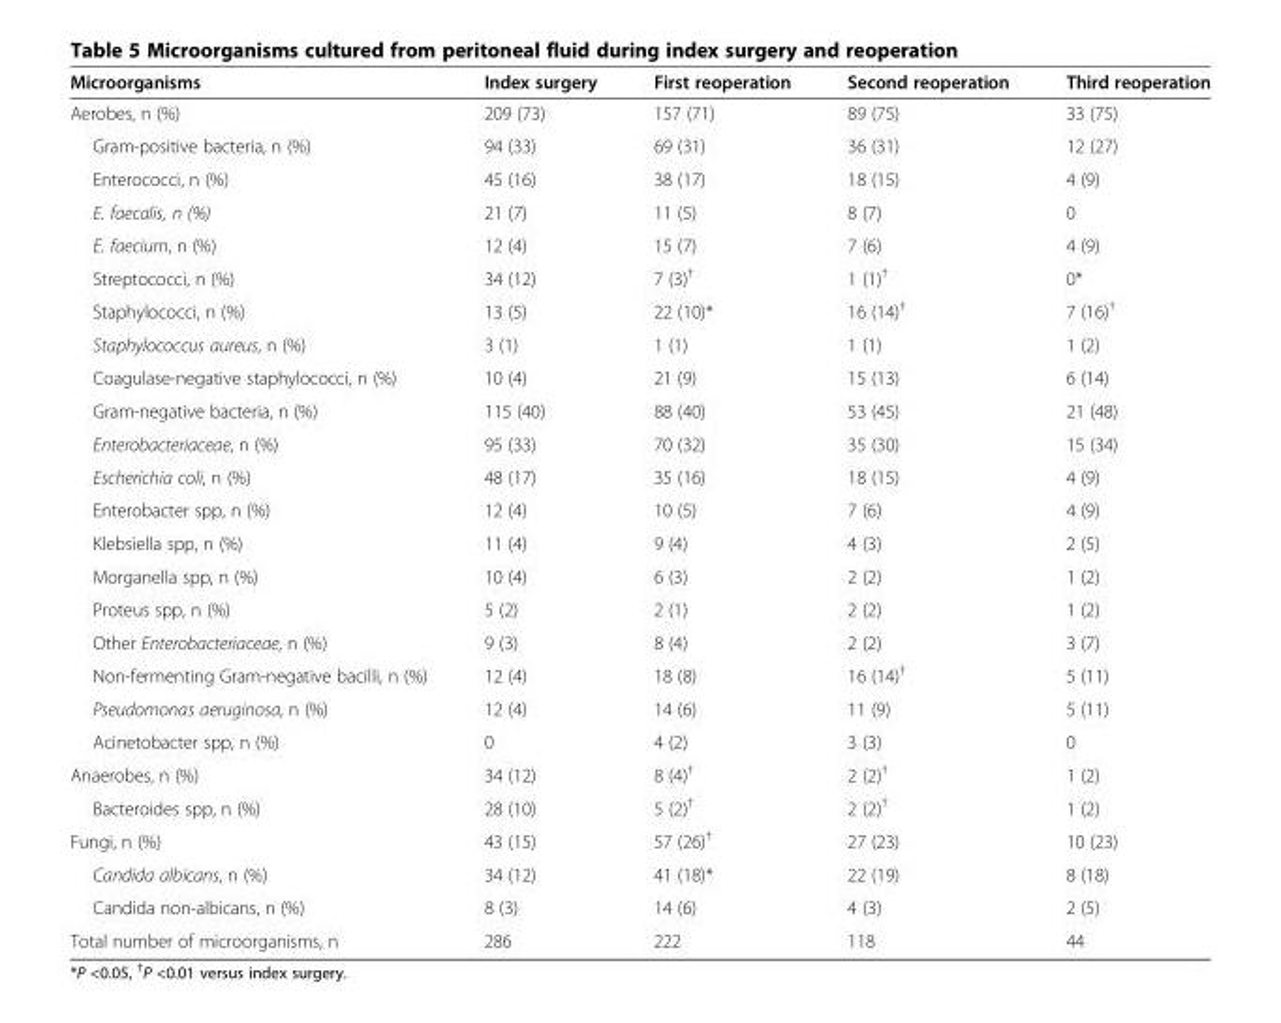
<table><thead><tr><td>Microorganisms</td><td>Index surgery</td><td>First reoperation</td><td>Second reoperation</td><td>Third reoperation</td></tr></thead><tbody><tr><td>Aerobes, n (%)</td><td>209 (73)</td><td>157 (71)</td><td>89 (75)</td><td>33 (75)</td></tr><tr><td>Gram-positive bacteria, n (%)</td><td>94 (33)</td><td>69 (31)</td><td>36 (31)</td><td>12 (27)</td></tr><tr><td>Enterococci, n (%)</td><td>45 (16)</td><td>38 (17)</td><td>18 (15)</td><td>4 (9)</td></tr><tr><td>E. faecalis, n (%)</td><td>21 (7)</td><td>11 (5)</td><td>8 (7)</td><td>0</td></tr><tr><td>E. faecium, n (%)</td><td>12 (4)</td><td>15 (7)</td><td>7 (6)</td><td>4 (9)</td></tr><tr><td>Streptococci, n (%)</td><td>34 (12)</td><td>7 (3)<sup>†</sup></td><td>1 (1)<sup>†</sup></td><td>0*</td></tr><tr><td>Staphylococci, n (%)</td><td>13 (5)</td><td>22 (10)*</td><td>16 (14)<sup>†</sup></td><td>7 (16)<sup>†</sup></td></tr><tr><td>Staphylococcus aureus, n (%)</td><td>3 (1)</td><td>1 (1)</td><td>1 (1)</td><td>1 (2)</td></tr><tr><td>Coagulase-negative staphylococci, n (%)</td><td>10 (4)</td><td>21 (9)</td><td>15 (13)</td><td>6 (14)</td></tr><tr><td>Gram-negative bacteria, n (%)</td><td>115 (40)</td><td>88 (40)</td><td>53 (45)</td><td>21 (48)</td></tr><tr><td>Enterobacteriaceae, n (%)</td><td>95 (33)</td><td>70 (32)</td><td>35 (30)</td><td>15 (34)</td></tr><tr><td>Escherichia coli, n (%)</td><td>48 (17)</td><td>35 (16)</td><td>18 (15)</td><td>4 (9)</td></tr><tr><td>Enterobacter spp, n (%)</td><td>12 (4)</td><td>10 (5)</td><td>7 (6)</td><td>4 (9)</td></tr><tr><td>Klebsiella spp, n (%)</td><td>11 (4)</td><td>9 (4)</td><td>4 (3)</td><td>2 (5)</td></tr><tr><td>Morganella spp, n (%)</td><td>10 (4)</td><td>6 (3)</td><td>2 (2)</td><td>1 (2)</td></tr><tr><td>Proteus spp, n (%)</td><td>5 (2)</td><td>2 (1)</td><td>2 (2)</td><td>1 (2)</td></tr><tr><td>Other Enterobacteriaceae, n (%)</td><td>9 (3)</td><td>8 (4)</td><td>2 (2)</td><td>3 (7)</td></tr><tr><td>Non-fermenting Gram-negative bacilli, n (%)</td><td>12 (4)</td><td>18 (8)</td><td>16 (14)<sup>†</sup></td><td>5 (11)</td></tr><tr><td>Pseudomonas aeruginosa, n (%)</td><td>12 (4)</td><td>14 (6)</td><td>11 (9)</td><td>5 (11)</td></tr><tr><td>Acinetobacter spp, n (%)</td><td>0</td><td>4 (2)</td><td>3 (3)</td><td>0</td></tr><tr><td>Anaerobes, n (%)</td><td>34 (12)</td><td>8 (4)<sup>†</sup></td><td>2 (2)<sup>†</sup></td><td>1 (2)</td></tr><tr><td>Bacteroides spp, n (%)</td><td>28 (10)</td><td>5 (2)<sup>†</sup></td><td>2 (2)<sup>†</sup></td><td>1 (2)</td></tr><tr><td>Fungi, n (%)</td><td>43 (15)</td><td>57 (26)<sup>†</sup></td><td>27 (23)</td><td>10 (23)</td></tr><tr><td>Candida albicans, n (%)</td><td>34 (12)</td><td>41 (18)*</td><td>22 (19)</td><td>8 (18)</td></tr><tr><td>Candida non-albicans, n (%)</td><td>8 (3)</td><td>14 (6)</td><td>4 (3)</td><td>2 (5)</td></tr><tr><td>Total number of microorganisms, n</td><td>286</td><td>222</td><td>118</td><td>44</td></tr></tbody></table>